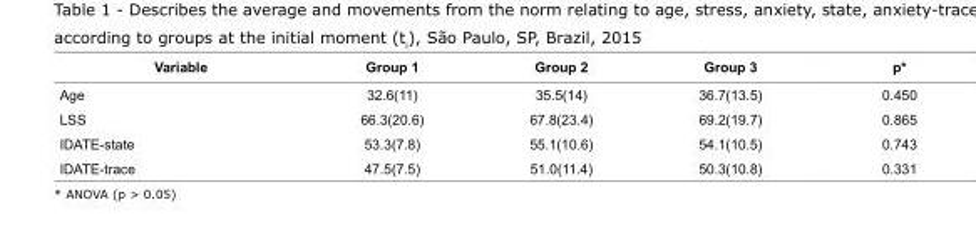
<table><thead><tr><td>Variable</td><td>Group 1</td><td>Group 2</td><td>Group 3</td><td>p*</td></tr></thead><tbody><tr><td>Age</td><td>32.6(11)</td><td>35.5(14)</td><td>36.7(13.5)</td><td>0.450</td></tr><tr><td>LSS</td><td>66.3(20.6)</td><td>67.8(23.4)</td><td>69.2(19.7)</td><td>0.865</td></tr><tr><td>IDATE-state</td><td>53.3(7.8)</td><td>55.1(10.6)</td><td>54.1(10.5)</td><td>0.743</td></tr><tr><td>IDATE-trace</td><td>47.5(7.5)</td><td>51.0(11.4)</td><td>50.3(10.8)</td><td>0.331</td></tr></tbody></table>